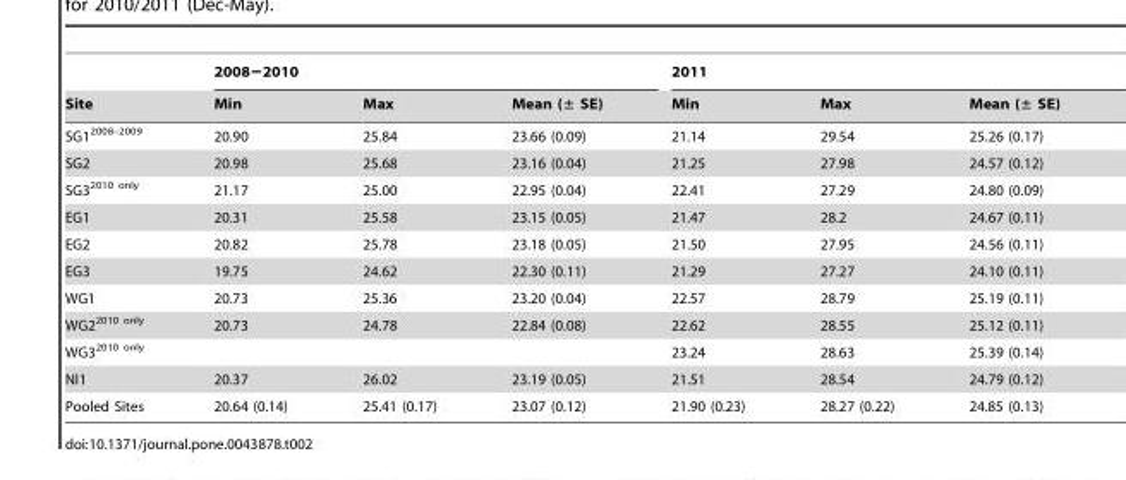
<table><thead><tr><td rowspan="2">Site</td><td colspan="3">2008−2010</td><td colspan="3">2011</td></tr><tr><td>Min</td><td>Max</td><td>Mean (± SE)</td><td>Min</td><td>Max</td><td>Mean (± SE)</td></tr></thead><tbody><tr><td>SG1<sup>2008–2009</sup></td><td>20.90</td><td>25.84</td><td>23.66 (0.09)</td><td>21.14</td><td>29.54</td><td>25.26 (0.17)</td></tr><tr><td>SG2</td><td>20.98</td><td>25.68</td><td>23.16 (0.04)</td><td>21.25</td><td>27.98</td><td>24.57 (0.12)</td></tr><tr><td>SG3<sup>2010 only</sup></td><td>21.17</td><td>25.00</td><td>22.95 (0.04)</td><td>22.41</td><td>27.29</td><td>24.80 (0.09)</td></tr><tr><td>EG1</td><td>20.31</td><td>25.58</td><td>23.15 (0.05)</td><td>21.47</td><td>28.2</td><td>24.67 (0.11)</td></tr><tr><td>EG2</td><td>20.82</td><td>25.78</td><td>23.18 (0.05)</td><td>21.50</td><td>27.95</td><td>24.56 (0.11)</td></tr><tr><td>EG3</td><td>19.75</td><td>24.62</td><td>22.30 (0.11)</td><td>21.29</td><td>27.27</td><td>24.10 (0.11)</td></tr><tr><td>WG1</td><td>20.73</td><td>25.36</td><td>23.20 (0.04)</td><td>22.57</td><td>28.79</td><td>25.19 (0.11)</td></tr><tr><td>WG2<sup>2010 only</sup></td><td>20.73</td><td>24.78</td><td>22.84 (0.08)</td><td>22.62</td><td>28.55</td><td>25.12 (0.11)</td></tr><tr><td>WG3<sup>2010 only</sup></td><td></td><td></td><td></td><td>23.24</td><td>28.63</td><td>25.39 (0.14)</td></tr><tr><td>NI1</td><td>20.37</td><td>26.02</td><td>23.19 (0.05)</td><td>21.51</td><td>28.54</td><td>24.79 (0.12)</td></tr><tr><td>Pooled Sites</td><td>20.64 (0.14)</td><td>25.41 (0.17)</td><td>23.07 (0.12)</td><td>21.90 (0.23)</td><td>28.27 (0.22)</td><td>24.85 (0.13)</td></tr></tbody></table>